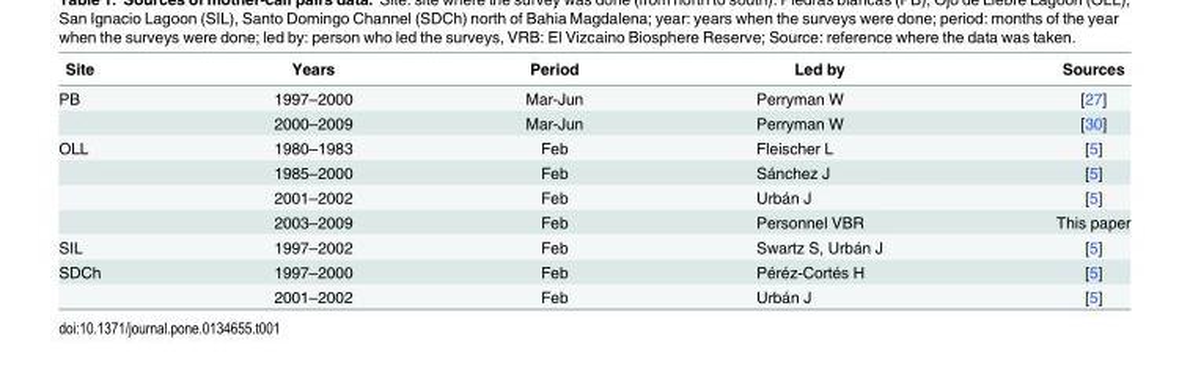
<table><thead><tr><td>Site</td><td>Years</td><td>Period</td><td>Led by</td><td>Sources</td></tr></thead><tbody><tr><td rowspan="2">PB</td><td>1997–2000</td><td>Mar-Jun</td><td>Perryman W</td><td>[27]</td></tr><tr><td>2000–2009</td><td>Mar-Jun</td><td>Perryman W</td><td>[30]</td></tr><tr><td rowspan="4">OLL</td><td>1980–1983</td><td>Feb</td><td>Fleischer L</td><td>[5]</td></tr><tr><td>1985–2000</td><td>Feb</td><td>Sánchez J</td><td>[5]</td></tr><tr><td>2001–2002</td><td>Feb</td><td>Urbán J</td><td>[5]</td></tr><tr><td>2003–2009</td><td>Feb</td><td>Personnel VBR</td><td>This paper</td></tr><tr><td>SIL</td><td>1997–2002</td><td>Feb</td><td>Swartz S, Urbán J</td><td>[5]</td></tr><tr><td rowspan="2">SDCh</td><td>1997–2000</td><td>Feb</td><td>Péréz-Cortés H</td><td>[5]</td></tr><tr><td>2001–2002</td><td>Feb</td><td>Urbán J</td><td>[5]</td></tr></tbody></table>